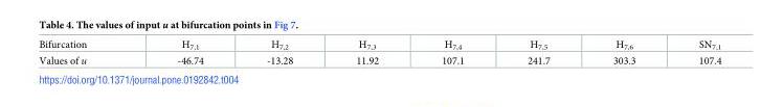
<table><tbody><tr><td>Bifurcation</td><td>H<sub>7,1</sub></td><td>H<sub>7,2</sub></td><td>H<sub>7,3</sub></td><td>H<sub>7,4</sub></td><td>H<sub>7,5</sub></td><td>H<sub>7,6</sub></td><td>SN<sub>7,1</sub></td></tr><tr><td>Values of u</td><td>-46.74</td><td>-13.28</td><td>11.92</td><td>107.1</td><td>241.7</td><td>303.3</td><td>107.4</td></tr></tbody></table>